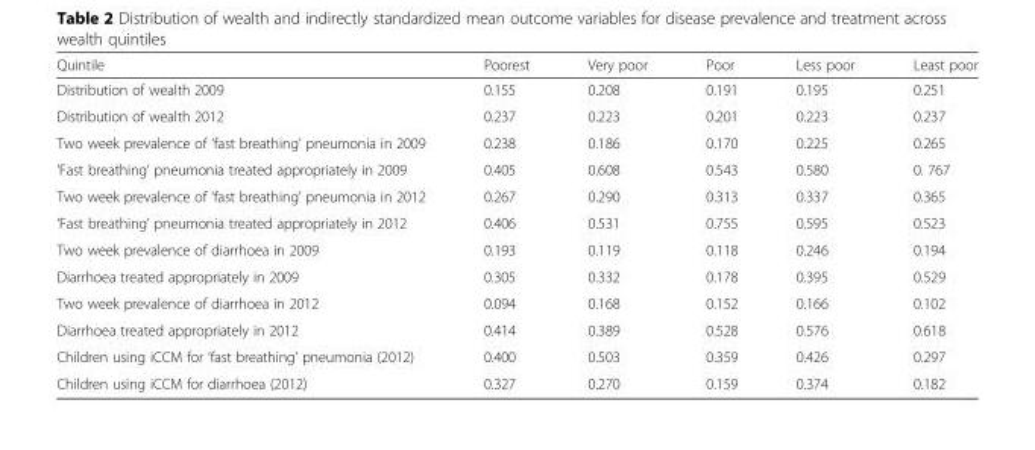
<table><thead><tr><td>Quintile</td><td>Poorest</td><td>Very poor</td><td>Poor</td><td>Less poor</td><td>Least poor</td></tr></thead><tbody><tr><td>Distribution of wealth 2009</td><td>0.155</td><td>0.208</td><td>0.191</td><td>0.195</td><td>0.251</td></tr><tr><td>Distribution of wealth 2012</td><td>0.237</td><td>0.223</td><td>0.201</td><td>0.223</td><td>0.237</td></tr><tr><td>Two week prevalence of ‘fast breathing’ pneumonia in 2009</td><td>0.238</td><td>0.186</td><td>0.170</td><td>0.225</td><td>0.265</td></tr><tr><td>‘Fast breathing’ pneumonia treated appropriately in 2009</td><td>0.405</td><td>0.608</td><td>0.543</td><td>0.580</td><td>0. 767</td></tr><tr><td>Two week prevalence of ‘fast breathing’ pneumonia in 2012</td><td>0.267</td><td>0.290</td><td>0.313</td><td>0.337</td><td>0.365</td></tr><tr><td>‘Fast breathing’ pneumonia treated appropriately in 2012</td><td>0.406</td><td>0.531</td><td>0.755</td><td>0.595</td><td>0.523</td></tr><tr><td>Two week prevalence of diarrhoea in 2009</td><td>0.193</td><td>0.119</td><td>0.118</td><td>0.246</td><td>0.194</td></tr><tr><td>Diarrhoea treated appropriately in 2009</td><td>0.305</td><td>0.332</td><td>0.178</td><td>0.395</td><td>0.529</td></tr><tr><td>Two week prevalence of diarrhoea in 2012</td><td>0.094</td><td>0.168</td><td>0.152</td><td>0.166</td><td>0.102</td></tr><tr><td>Diarrhoea treated appropriately in 2012</td><td>0.414</td><td>0.389</td><td>0.528</td><td>0.576</td><td>0.618</td></tr><tr><td>Children using iCCM for ‘fast breathing’ pneumonia (2012)</td><td>0.400</td><td>0.503</td><td>0.359</td><td>0.426</td><td>0.297</td></tr><tr><td>Children using iCCM for diarrhoea (2012)</td><td>0.327</td><td>0.270</td><td>0.159</td><td>0.374</td><td>0.182</td></tr></tbody></table>